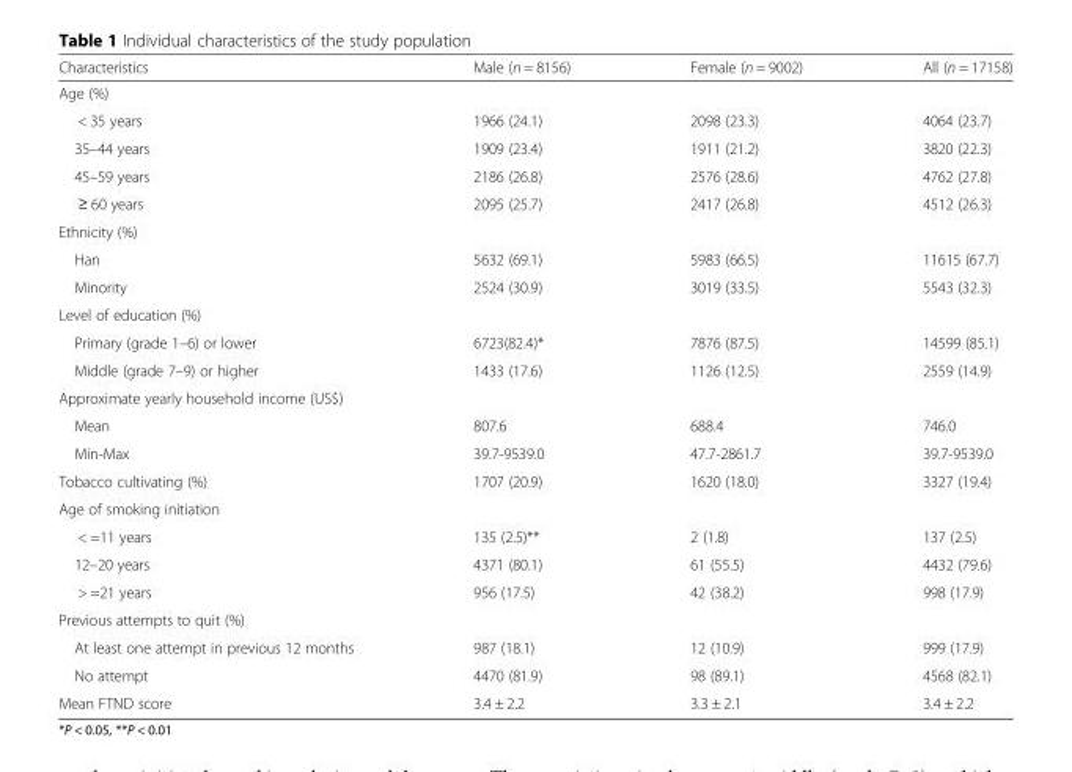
<table><thead><tr><td>Characteristics</td><td>Male (n = 8156)</td><td>Female (n = 9002)</td><td>All (n = 17158)</td></tr></thead><tbody><tr><td colspan="4">Age (%)</td></tr><tr><td>&lt; 35 years</td><td>1966 (24.1)</td><td>2098 (23.3)</td><td>4064 (23.7)</td></tr><tr><td>35–44 years</td><td>1909 (23.4)</td><td>1911 (21.2)</td><td>3820 (22.3)</td></tr><tr><td>45–59 years</td><td>2186 (26.8)</td><td>2576 (28.6)</td><td>4762 (27.8)</td></tr><tr><td>≥ 60 years</td><td>2095 (25.7)</td><td>2417 (26.8)</td><td>4512 (26.3)</td></tr><tr><td colspan="4">Ethnicity (%)</td></tr><tr><td>Han</td><td>5632 (69.1)</td><td>5983 (66.5)</td><td>11615 (67.7)</td></tr><tr><td>Minority</td><td>2524 (30.9)</td><td>3019 (33.5)</td><td>5543 (32.3)</td></tr><tr><td colspan="4">Level of education (%)</td></tr><tr><td>Primary (grade 1–6) or lower</td><td>6723(82.4)*</td><td>7876 (87.5)</td><td>14599 (85.1)</td></tr><tr><td>Middle (grade 7–9) or higher</td><td>1433 (17.6)</td><td>1126 (12.5)</td><td>2559 (14.9)</td></tr><tr><td colspan="4">Approximate yearly household income (US$)</td></tr><tr><td>Mean</td><td>807.6</td><td>688.4</td><td>746.0</td></tr><tr><td>Min-Max</td><td>39.7-9539.0</td><td>47.7-2861.7</td><td>39.7-9539.0</td></tr><tr><td>Tobacco cultivating (%)</td><td>1707 (20.9)</td><td>1620 (18.0)</td><td>3327 (19.4)</td></tr><tr><td colspan="4">Age of smoking initiation</td></tr><tr><td>&lt; =11 years</td><td>135 (2.5)**</td><td>2 (1.8)</td><td>137 (2.5)</td></tr><tr><td>12–20 years</td><td>4371 (80.1)</td><td>61 (55.5)</td><td>4432 (79.6)</td></tr><tr><td>&gt; =21 years</td><td>956 (17.5)</td><td>42 (38.2)</td><td>998 (17.9)</td></tr><tr><td colspan="4">Previous attempts to quit (%)</td></tr><tr><td>At least one attempt in previous 12 months</td><td>987 (18.1)</td><td>12 (10.9)</td><td>999 (17.9)</td></tr><tr><td>No attempt</td><td>4470 (81.9)</td><td>98 (89.1)</td><td>4568 (82.1)</td></tr><tr><td>Mean FTND score</td><td>3.4 ± 2.2</td><td>3.3 ± 2.1</td><td>3.4 ± 2.2</td></tr></tbody></table>